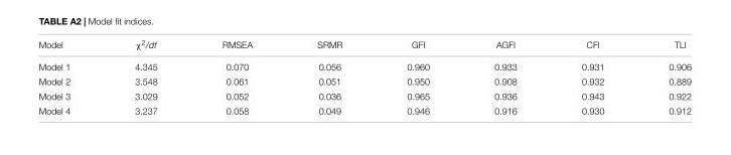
<table><thead><tr><td>Model</td><td>χ<sup>2</sup>/df</td><td>RMSEA</td><td>SRMR</td><td>GFI</td><td>AGFI</td><td>CFI</td><td>TLI</td></tr></thead><tbody><tr><td>Model 1</td><td>4.345</td><td>0.070</td><td>0.056</td><td>0.960</td><td>0.933</td><td>0.931</td><td>0.906</td></tr><tr><td>Model 2</td><td>3.548</td><td>0.061</td><td>0.051</td><td>0.950</td><td>0.908</td><td>0.932</td><td>0.889</td></tr><tr><td>Model 3</td><td>3.029</td><td>0.052</td><td>0.036</td><td>0.965</td><td>0.936</td><td>0.943</td><td>0.922</td></tr><tr><td>Model 4</td><td>3.237</td><td>0.058</td><td>0.049</td><td>0.946</td><td>0.916</td><td>0.930</td><td>0.912</td></tr></tbody></table>